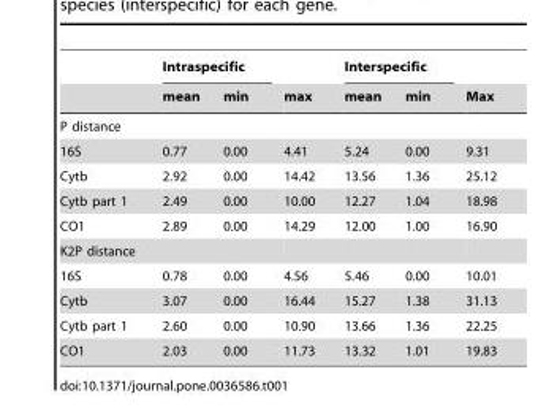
<table><thead><tr><td rowspan="2"></td><td colspan="2">Intraspecific</td><td rowspan="2">max</td><td colspan="2">Interspecific</td><td rowspan="2">Max</td></tr><tr><td>mean</td><td>min</td><td>mean</td><td>min</td></tr></thead><tbody><tr><td colspan="7">P distance</td></tr><tr><td>16S</td><td>0.77</td><td>0.00</td><td>4.41</td><td>5.24</td><td>0.00</td><td>9.31</td></tr><tr><td>Cytb</td><td>2.92</td><td>0.00</td><td>14.42</td><td>13.56</td><td>1.36</td><td>25.12</td></tr><tr><td>Cytb part 1</td><td>2.49</td><td>0.00</td><td>10.00</td><td>12.27</td><td>1.04</td><td>18.98</td></tr><tr><td>CO1</td><td>2.89</td><td>0.00</td><td>14.29</td><td>12.00</td><td>1.00</td><td>16.90</td></tr><tr><td colspan="7">K2P distance</td></tr><tr><td>16S</td><td>0.78</td><td>0.00</td><td>4.56</td><td>5.46</td><td>0.00</td><td>10.01</td></tr><tr><td>Cytb</td><td>3.07</td><td>0.00</td><td>16.44</td><td>15.27</td><td>1.38</td><td>31.13</td></tr><tr><td>Cytb part 1</td><td>2.60</td><td>0.00</td><td>10.90</td><td>13.66</td><td>1.36</td><td>22.25</td></tr><tr><td>CO1</td><td>2.03</td><td>0.00</td><td>11.73</td><td>13.32</td><td>1.01</td><td>19.83</td></tr></tbody></table>